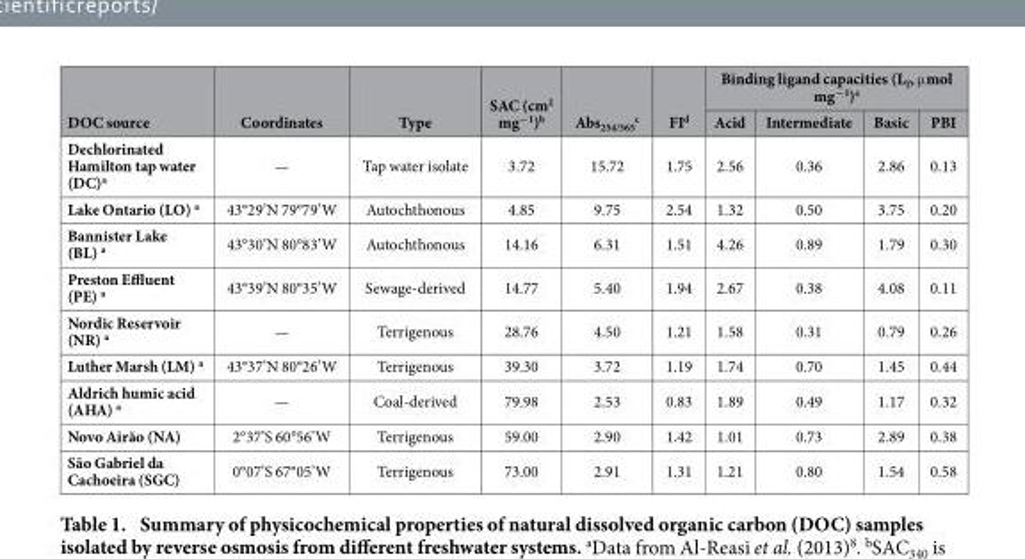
<table><thead><tr><td rowspan="2">DOC source</td><td rowspan="2">Coordinates</td><td rowspan="2">Type</td><td rowspan="2">SAC (cm<sup>2</sup> mg<sup>−1</sup>)<sup>b</sup></td><td rowspan="2">Abs<sub>254/365</sub> <sup>c</sup></td><td rowspan="2">FI<sup>d</sup></td><td colspan="4">Binding ligand capacities (L<sub>T</sub>, μ mol mg<sup>−1</sup>)<sup>e</sup></td></tr><tr><td>Acid</td><td>Intermediate</td><td>Basic</td><td>PBI</td></tr></thead><tbody><tr><td>Dechlorinated Hamilton tap water (DC)<sup>a</sup></td><td>—</td><td>Tap water isolate</td><td>3.72</td><td>15.72</td><td>1.75</td><td>2.56</td><td>0.36</td><td>2.86</td><td>0.13</td></tr><tr><td>Lake Ontario (LO) a</td><td>43°29’N 79°79’W</td><td>Autochthonous</td><td>4.85</td><td>9.75</td><td>2.54</td><td>1.32</td><td>0.50</td><td>3.75</td><td>0.20</td></tr><tr><td>Bannister Lake (BL) a</td><td>43°30’N 80°83’W</td><td>Autochthonous</td><td>14.16</td><td>6.31</td><td>1.51</td><td>4.26</td><td>0.89</td><td>1.79</td><td>0.30</td></tr><tr><td>Preston Effluent (PE) a</td><td>43°39’N 80°35’W</td><td>Sewage-derived</td><td>14.77</td><td>5.40</td><td>1.94</td><td>2.67</td><td>0.38</td><td>4.08</td><td>0.11</td></tr><tr><td>Nordic Reservoir (NR) a</td><td>—</td><td>Terrigenous</td><td>28.76</td><td>4.50</td><td>1.21</td><td>1.58</td><td>0.31</td><td>0.79</td><td>0.26</td></tr><tr><td>Luther Marsh (LM) a</td><td>43°37’N 80°26’W</td><td>Terrigenous</td><td>39.30</td><td>3.72</td><td>1.19</td><td>1.74</td><td>0.70</td><td>1.45</td><td>0.44</td></tr><tr><td>Aldrich humic acid (AHA) a</td><td>—</td><td>Coal-derived</td><td>79.98</td><td>2.53</td><td>0.83</td><td>1.89</td><td>0.49</td><td>1.17</td><td>0.32</td></tr><tr><td>Novo Airão (NA)</td><td>2°37’S 60°56’W</td><td>Terrigenous</td><td>59.00</td><td>2.90</td><td>1.42</td><td>1.01</td><td>0.73</td><td>2.89</td><td>0.38</td></tr><tr><td>São Gabriel da Cachoeira (SGC)</td><td>0°07’S 67°05’W</td><td>Terrigenous</td><td>73.00</td><td>2.91</td><td>1.31</td><td>1.21</td><td>0.80</td><td>1.54</td><td>0.58</td></tr></tbody></table>